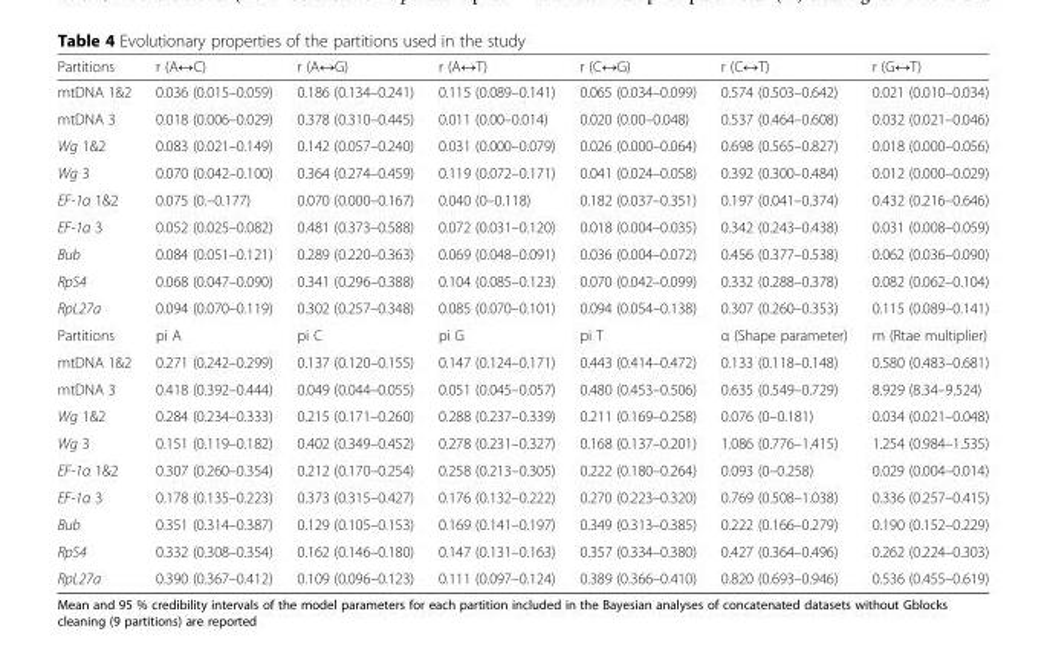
<table><thead><tr><td>Partitions</td><td>r (A↔C)</td><td>r (A↔G)</td><td>r (A↔T)</td><td>r (C↔G)</td><td>r (C↔T)</td><td>r (G↔T)</td></tr></thead><tbody><tr><td>mtDNA 1&amp;2</td><td>0.036 (0.015–0.059)</td><td>0.186 (0.134–0.241)</td><td>0.115 (0.089–0.141)</td><td>0.065 (0.034–0.099)</td><td>0.574 (0.503–0.642)</td><td>0.021 (0.010–0.034)</td></tr><tr><td>mtDNA 3</td><td>0.018 (0.006–0.029)</td><td>0.378 (0.310–0.445)</td><td>0.011 (0.00–0.014)</td><td>0.020 (0.00–0.048)</td><td>0.537 (0.464–0.608)</td><td>0.032 (0.021–0.046)</td></tr><tr><td>Wg 1&amp;2</td><td>0.083 (0.021–0.149)</td><td>0.142 (0.057–0.240)</td><td>0.031 (0.000–0.079)</td><td>0.026 (0.000–0.064)</td><td>0.698 (0.565–0.827)</td><td>0.018 (0.000–0.056)</td></tr><tr><td>Wg 3</td><td>0.070 (0.042–0.100)</td><td>0.364 (0.274–0.459)</td><td>0.119 (0.072–0.171)</td><td>0.041 (0.024–0.058)</td><td>0.392 (0.300–0.484)</td><td>0.012 (0.000–0.029)</td></tr><tr><td>EF-1α 1&amp;2</td><td>0.075 (0.–0.177)</td><td>0.070 (0.000–0.167)</td><td>0.040 (0–0.118)</td><td>0.182 (0.037–0.351)</td><td>0.197 (0.041–0.374)</td><td>0.432 (0.216–0.646)</td></tr><tr><td>EF-1α 3</td><td>0.052 (0.025–0.082)</td><td>0.481 (0.373–0.588)</td><td>0.072 (0.031–0.120)</td><td>0.018 (0.004–0.035)</td><td>0.342 (0.243–0.438)</td><td>0.031 (0.008–0.059)</td></tr><tr><td>Bub</td><td>0.084 (0.051–0.121)</td><td>0.289 (0.220–0.363)</td><td>0.069 (0.048–0.091)</td><td>0.036 (0.004–0.072)</td><td>0.456 (0.377–0.538)</td><td>0.062 (0.036–0.090)</td></tr><tr><td>RpS4</td><td>0.068 (0.047–0.090)</td><td>0.341 (0.296–0.388)</td><td>0.104 (0.085–0.123)</td><td>0.070 (0.042–0.099)</td><td>0.332 (0.288–0.378)</td><td>0.082 (0.062–0.104)</td></tr><tr><td>RpL27a</td><td>0.094 (0.070–0.119)</td><td>0.302 (0.257–0.348)</td><td>0.085 (0.070–0.101)</td><td>0.094 (0.054–0.138)</td><td>0.307 (0.260–0.353)</td><td>0.115 (0.089–0.141)</td></tr><tr><td>Partitions</td><td>pi A</td><td>pi C</td><td>pi G</td><td>pi T</td><td>α (Shape parameter)</td><td>m (Rtae multiplier)</td></tr><tr><td>mtDNA 1&amp;2</td><td>0.271 (0.242–0.299)</td><td>0.137 (0.120–0.155)</td><td>0.147 (0.124–0.171)</td><td>0.443 (0.414–0.472)</td><td>0.133 (0.118–0.148)</td><td>0.580 (0.483–0.681)</td></tr><tr><td>mtDNA 3</td><td>0.418 (0.392–0.444)</td><td>0.049 (0.044–0.055)</td><td>0.051 (0.045–0.057)</td><td>0.480 (0.453–0.506)</td><td>0.635 (0.549–0.729)</td><td>8.929 (8.34–9.524)</td></tr><tr><td>Wg 1&amp;2</td><td>0.284 (0.234–0.333)</td><td>0.215 (0.171–0.260)</td><td>0.288 (0.237–0.339)</td><td>0.211 (0.169–0.258)</td><td>0.076 (0–0.181)</td><td>0.034 (0.021–0.048)</td></tr><tr><td>Wg 3</td><td>0.151 (0.119–0.182)</td><td>0.402 (0.349–0.452)</td><td>0.278 (0.231–0.327)</td><td>0.168 (0.137–0.201)</td><td>1.086 (0.776–1.415)</td><td>1.254 (0.984–1.535)</td></tr><tr><td>EF-1α 1&amp;2</td><td>0.307 (0.260–0.354)</td><td>0.212 (0.170–0.254)</td><td>0.258 (0.213–0.305)</td><td>0.222 (0.180–0.264)</td><td>0.093 (0–0.258)</td><td>0.029 (0.004–0.014)</td></tr><tr><td>EF-1α 3</td><td>0.178 (0.135–0.223)</td><td>0.373 (0.315–0.427)</td><td>0.176 (0.132–0.222)</td><td>0.270 (0.223–0.320)</td><td>0.769 (0.508–1.038)</td><td>0.336 (0.257–0.415)</td></tr><tr><td>Bub</td><td>0.351 (0.314–0.387)</td><td>0.129 (0.105–0.153)</td><td>0.169 (0.141–0.197)</td><td>0.349 (0.313–0.385)</td><td>0.222 (0.166–0.279)</td><td>0.190 (0.152–0.229)</td></tr><tr><td>RpS4</td><td>0.332 (0.308–0.354)</td><td>0.162 (0.146–0.180)</td><td>0.147 (0.131–0.163)</td><td>0.357 (0.334–0.380)</td><td>0.427 (0.364–0.496)</td><td>0.262 (0.224–0.303)</td></tr><tr><td>RpL27a</td><td>0.390 (0.367–0.412)</td><td>0.109 (0.096–0.123)</td><td>0.111 (0.097–0.124)</td><td>0.389 (0.366–0.410)</td><td>0.820 (0.693–0.946)</td><td>0.536 (0.455–0.619)</td></tr></tbody></table>